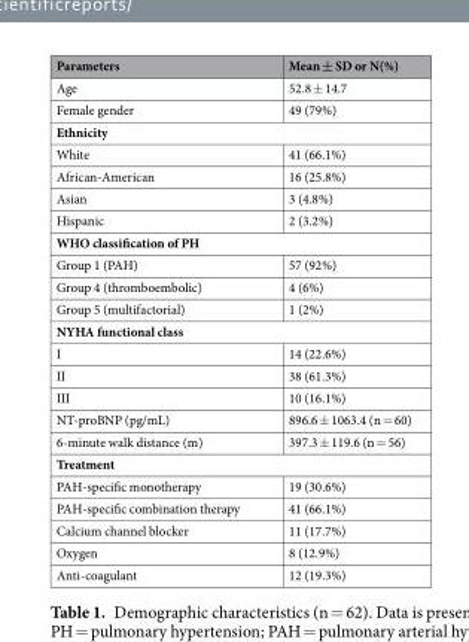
<table><thead><tr><td>Parameters</td><td>Mean ± SD or N(%)</td></tr></thead><tbody><tr><td>Age</td><td>52.8 ± 14.7</td></tr><tr><td>Female gender</td><td>49 (79%)</td></tr><tr><td colspan="2">Ethnicity</td></tr><tr><td>White</td><td>41 (66.1%)</td></tr><tr><td>African-American</td><td>16 (25.8%)</td></tr><tr><td>Asian</td><td>3 (4.8%)</td></tr><tr><td>Hispanic</td><td>2 (3.2%)</td></tr><tr><td colspan="2">WHO classification of PH</td></tr><tr><td>Group 1 (PAH)</td><td>57 (92%)</td></tr><tr><td>Group 4 (thromboembolic)</td><td>4 (6%)</td></tr><tr><td>Group 5 (multifactorial)</td><td>1 (2%)</td></tr><tr><td colspan="2">NYHA functional class</td></tr><tr><td>I</td><td>14 (22.6%)</td></tr><tr><td>II</td><td>38 (61.3%)</td></tr><tr><td>III</td><td>10 (16.1%)</td></tr><tr><td>NT-proBNP (pg/mL)</td><td>896.6 ± 1063.4 (n = 60)</td></tr><tr><td>6-minute walk distance (m)</td><td>397.3 ± 119.6 (n = 56)</td></tr><tr><td colspan="2">Treatment</td></tr><tr><td>PAH-specific monotherapy</td><td>19 (30.6%)</td></tr><tr><td>PAH-specific combination therapy</td><td>41 (66.1%)</td></tr><tr><td>Calcium channel blocker</td><td>11 (17.7%)</td></tr><tr><td>Oxygen</td><td>8 (12.9%)</td></tr><tr><td>Anti-coagulant</td><td>12 (19.3%)</td></tr></tbody></table>